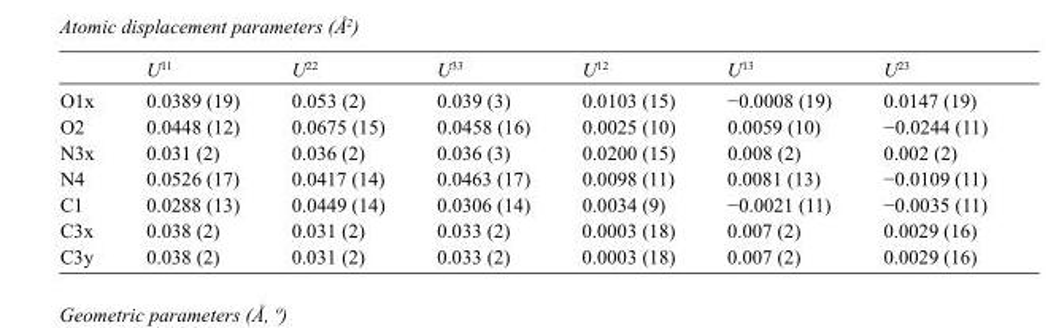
<table><thead><tr><td></td><td>U<sup>11</sup></td><td>U<sup>22</sup></td><td>U<sup>33</sup></td><td>U<sup>12</sup></td><td>U<sup>13</sup></td><td>U<sup>23</sup></td></tr></thead><tbody><tr><td>O1x</td><td>0.0389 (19)</td><td>0.053 (2)</td><td>0.039 (3)</td><td>0.0103 (15)</td><td>−0.0008 (19)</td><td>0.0147 (19)</td></tr><tr><td>O2</td><td>0.0448 (12)</td><td>0.0675 (15)</td><td>0.0458 (16)</td><td>0.0025 (10)</td><td>0.0059 (10)</td><td>−0.0244 (11)</td></tr><tr><td>N3x</td><td>0.031 (2)</td><td>0.036 (2)</td><td>0.036 (3)</td><td>0.0200 (15)</td><td>0.008 (2)</td><td>0.002 (2)</td></tr><tr><td>N4</td><td>0.0526 (17)</td><td>0.0417 (14)</td><td>0.0463 (17)</td><td>0.0098 (11)</td><td>0.0081 (13)</td><td>−0.0109 (11)</td></tr><tr><td>C1</td><td>0.0288 (13)</td><td>0.0449 (14)</td><td>0.0306 (14)</td><td>0.0034 (9)</td><td>−0.0021 (11)</td><td>−0.0035 (11)</td></tr><tr><td>C3x</td><td>0.038 (2)</td><td>0.031 (2)</td><td>0.033 (2)</td><td>0.0003 (18)</td><td>0.007 (2)</td><td>0.0029 (16)</td></tr><tr><td>C3y</td><td>0.038 (2)</td><td>0.031 (2)</td><td>0.033 (2)</td><td>0.0003 (18)</td><td>0.007 (2)</td><td>0.0029 (16)</td></tr></tbody></table>